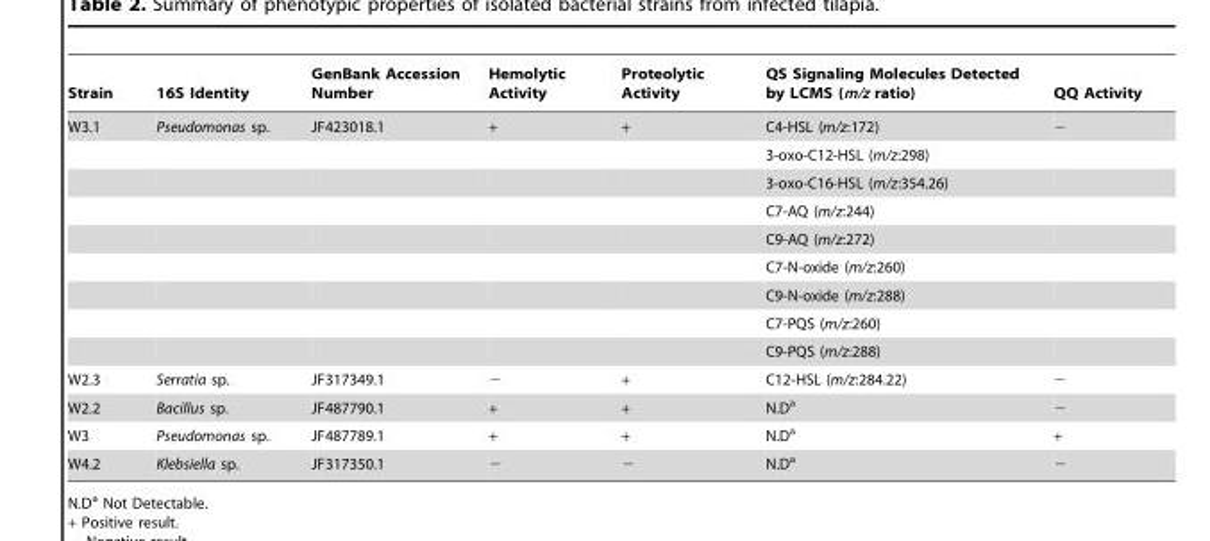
<table><thead><tr><td>Strain</td><td>16S Identity</td><td>GenBank Accession Number</td><td>Hemolytic Activity</td><td>Proteolytic Activity</td><td>QS Signaling Molecules Detected by LCMS (m/z ratio)</td><td>QQ Activity</td></tr></thead><tbody><tr><td rowspan="9">W3.1</td><td>Pseudomonas sp.</td><td>JF423018.1</td><td>+</td><td>+</td><td>C4-HSL (m/z:172)</td><td>−</td></tr><tr><td></td><td></td><td></td><td></td><td>3-oxo-C12-HSL (m/z:298)</td><td></td></tr><tr><td></td><td></td><td></td><td></td><td>3-oxo-C16-HSL (m/z:354.26)</td><td></td></tr><tr><td></td><td></td><td></td><td></td><td>C7-AQ (m/z:244)</td><td></td></tr><tr><td></td><td></td><td></td><td></td><td>C9-AQ (m/z:272)</td><td></td></tr><tr><td></td><td></td><td></td><td></td><td>C7-N-oxide (m/z:260)</td><td></td></tr><tr><td></td><td></td><td></td><td></td><td>C9-N-oxide (m/z:288)</td><td></td></tr><tr><td></td><td></td><td></td><td></td><td>C7-PQS (m/z:260)</td><td></td></tr><tr><td></td><td></td><td></td><td></td><td>C9-PQS (m/z:288)</td><td></td></tr><tr><td>W2.3</td><td>Serratia sp.</td><td>JF317349.1</td><td>−</td><td>+</td><td>C12-HSL (m/z:284.22)</td><td>−</td></tr><tr><td>W2.2</td><td>Bacillus sp.</td><td>JF487790.1</td><td>+</td><td>+</td><td>N.D<sup>a</sup></td><td>−</td></tr><tr><td>W3</td><td>Pseudomonas sp.</td><td>JF487789.1</td><td>+</td><td>+</td><td>N.D<sup>a</sup></td><td>+</td></tr><tr><td>W4.2</td><td>Klebsiella sp.</td><td>JF317350.1</td><td>−</td><td>−</td><td>N.D<sup>a</sup></td><td>−</td></tr></tbody></table>